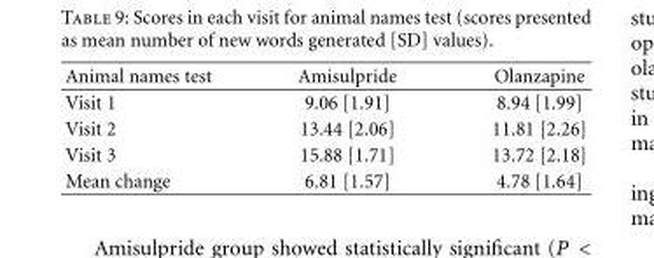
<table><thead><tr><td>Animal names test</td><td>Amisulpride</td><td>Olanzapine</td></tr></thead><tbody><tr><td>Visit 1</td><td>9.06 [1.91]</td><td>8.94 [1.99]</td></tr><tr><td>Visit 2</td><td>13.44 [2.06]</td><td>11.81 [2.26]</td></tr><tr><td>Visit 3</td><td>15.88 [1.71]</td><td>13.72 [2.18]</td></tr><tr><td>Mean change</td><td>6.81 [1.57]</td><td>4.78 [1.64]</td></tr></tbody></table>